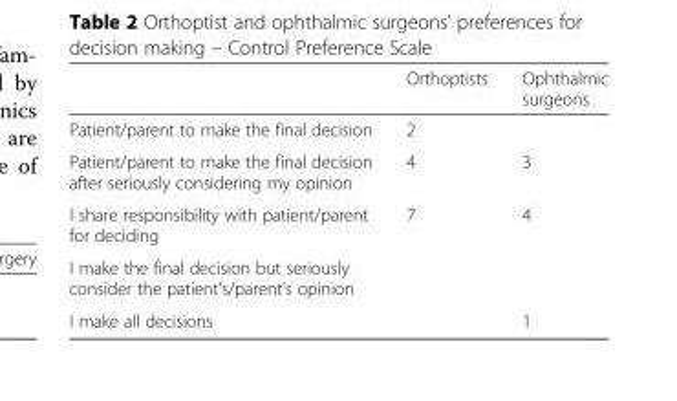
<table><thead><tr><td></td><td>Orthoptists</td><td>Ophthalmic surgeons</td></tr></thead><tbody><tr><td>Patient/parent to make the final decision</td><td>2</td><td></td></tr><tr><td>Patient/parent to make the final decision after seriously considering my opinion</td><td>4</td><td>3</td></tr><tr><td>I share responsibility with patient/parent for deciding</td><td>7</td><td>4</td></tr><tr><td colspan="3">I make the final decision but seriously consider the patient’s/parent’s opinion</td></tr><tr><td>I make all decisions</td><td></td><td>1</td></tr></tbody></table>